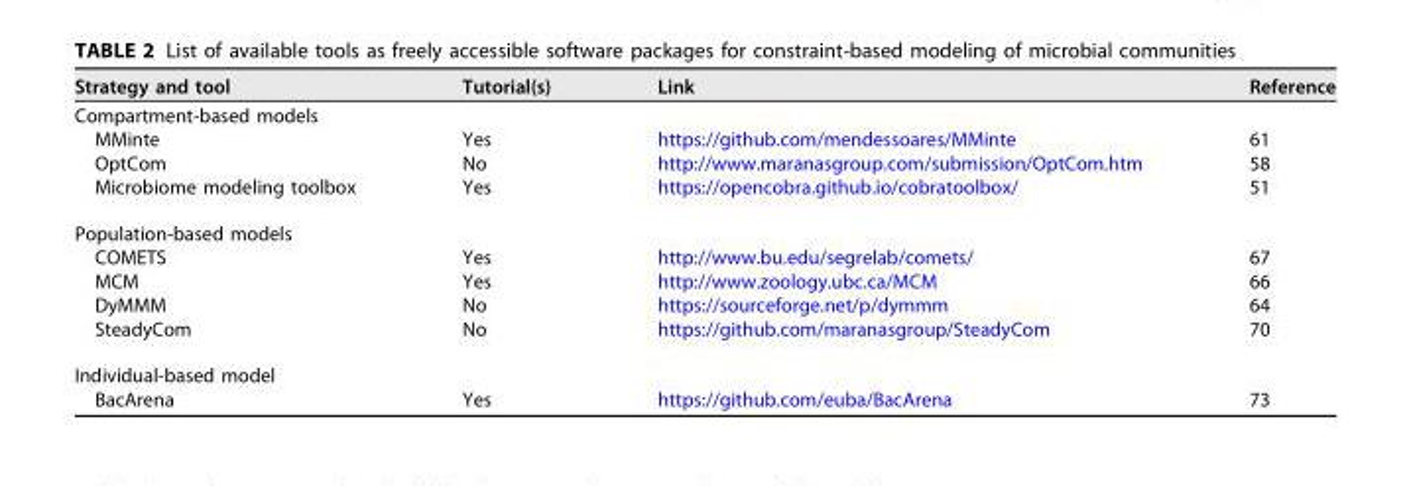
<table><thead><tr><td>Strategy and tool</td><td>Tutorial(s)</td><td>Link</td><td>Reference</td></tr></thead><tbody><tr><td colspan="4">Compartment-based models</td></tr><tr><td>MMinte</td><td>Yes</td><td>https://github.com/mendessoares/MMinte</td><td>61</td></tr><tr><td>OptCom</td><td>No</td><td>http://www.maranasgroup.com/submission/OptCom.htm</td><td>58</td></tr><tr><td>Microbiome modeling toolbox</td><td>Yes</td><td>https://opencobra.github.io/cobratoolbox/</td><td>51</td></tr><tr><td colspan="4">Population-based models</td></tr><tr><td>COMETS</td><td>Yes</td><td>http://www.bu.edu/segrelab/comets/</td><td>67</td></tr><tr><td>MCM</td><td>Yes</td><td>http://www.zoology.ubc.ca/MCM</td><td>66</td></tr><tr><td>DyMMM</td><td>No</td><td>https://sourceforge.net/p/dymmm</td><td>64</td></tr><tr><td>SteadyCom</td><td>No</td><td>https://github.com/maranasgroup/SteadyCom</td><td>70</td></tr><tr><td colspan="4">Individual-based model</td></tr><tr><td>BacArena</td><td>Yes</td><td>https://github.com/euba/BacArena</td><td>73</td></tr></tbody></table>